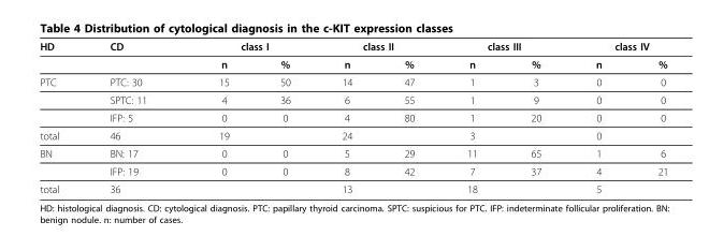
<table><thead><tr><td rowspan="2">HD</td><td rowspan="2">CD</td><td colspan="2">class I</td><td colspan="2">class II</td><td colspan="2">class III</td><td colspan="2">class IV</td></tr><tr><td>n</td><td>%</td><td>n</td><td>%</td><td>n</td><td>%</td><td>n</td><td>%</td></tr></thead><tbody><tr><td rowspan="3">PTC</td><td>PTC: 30</td><td>15</td><td>50</td><td>14</td><td>47</td><td>1</td><td>3</td><td>0</td><td>0</td></tr><tr><td>SPTC: 11</td><td>4</td><td>36</td><td>6</td><td>55</td><td>1</td><td>9</td><td>0</td><td>0</td></tr><tr><td>IFP: 5</td><td>0</td><td>0</td><td>4</td><td>80</td><td>1</td><td>20</td><td>0</td><td>0</td></tr><tr><td>total</td><td>46</td><td>19</td><td></td><td>24</td><td></td><td>3</td><td></td><td>0</td><td></td></tr><tr><td rowspan="2">BN</td><td>BN: 17</td><td>0</td><td>0</td><td>5</td><td>29</td><td>11</td><td>65</td><td>1</td><td>6</td></tr><tr><td>IFP: 19</td><td>0</td><td>0</td><td>8</td><td>42</td><td>7</td><td>37</td><td>4</td><td>21</td></tr><tr><td>total</td><td>36</td><td></td><td></td><td>13</td><td></td><td>18</td><td></td><td>5</td><td></td></tr></tbody></table>